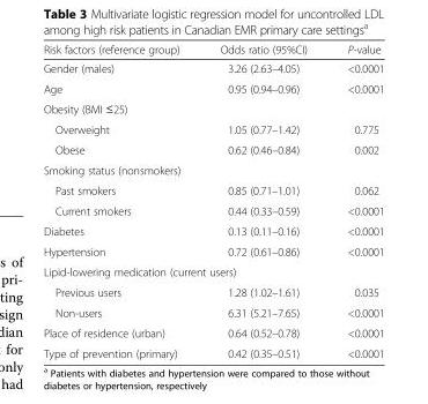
<table><thead><tr><td>Risk factors (reference group)</td><td>Odds ratio (95%CI)</td><td>P-value</td></tr></thead><tbody><tr><td>Gender (males)</td><td>3.26 (2.63–4.05)</td><td>&lt;0.0001</td></tr><tr><td>Age</td><td>0.95 (0.94–0.96)</td><td>&lt;0.0001</td></tr><tr><td colspan="3">Obesity (BMI ≤25)</td></tr><tr><td>Overweight</td><td>1.05 (0.77–1.42)</td><td>0.775</td></tr><tr><td>Obese</td><td>0.62 (0.46–0.84)</td><td>0.002</td></tr><tr><td colspan="3">Smoking status (nonsmokers)</td></tr><tr><td>Past smokers</td><td>0.85 (0.71–1.01)</td><td>0.062</td></tr><tr><td>Current smokers</td><td>0.44 (0.33–0.59)</td><td>&lt;0.0001</td></tr><tr><td>Diabetes</td><td>0.13 (0.11–0.16)</td><td>&lt;0.0001</td></tr><tr><td>Hypertension</td><td>0.72 (0.61–0.86)</td><td>&lt;0.0001</td></tr><tr><td colspan="3">Lipid-lowering medication (current users)</td></tr><tr><td>Previous users</td><td>1.28 (1.02–1.61)</td><td>0.035</td></tr><tr><td>Non-users</td><td>6.31 (5.21–7.65)</td><td>&lt;0.0001</td></tr><tr><td>Place of residence (urban)</td><td>0.64 (0.52–0.78)</td><td>&lt;0.0001</td></tr><tr><td>Type of prevention (primary)</td><td>0.42 (0.35–0.51)</td><td>&lt;0.0001</td></tr></tbody></table>